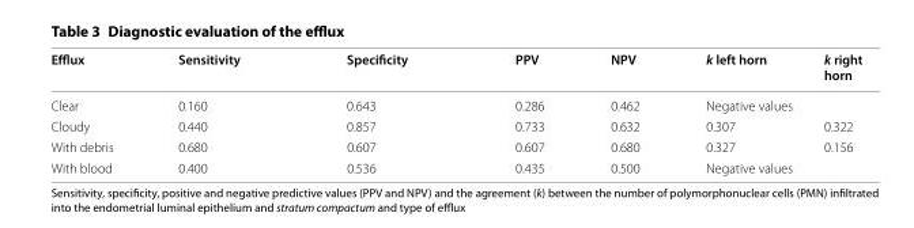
<table><thead><tr><td>Efflux</td><td>Sensitivity</td><td>Specificity</td><td>PPV</td><td>NPV</td><td>k left horn</td><td>k right horn</td></tr></thead><tbody><tr><td>Clear</td><td>0.160</td><td>0.643</td><td>0.286</td><td>0.462</td><td colspan="2">Negative values</td></tr><tr><td>Cloudy</td><td>0.440</td><td>0.857</td><td>0.733</td><td>0.632</td><td>0.307</td><td>0.322</td></tr><tr><td>With debris</td><td>0.680</td><td>0.607</td><td>0.607</td><td>0.680</td><td>0.327</td><td>0.156</td></tr><tr><td>With blood</td><td>0.400</td><td>0.536</td><td>0.435</td><td>0.500</td><td colspan="2">Negative values</td></tr></tbody></table>